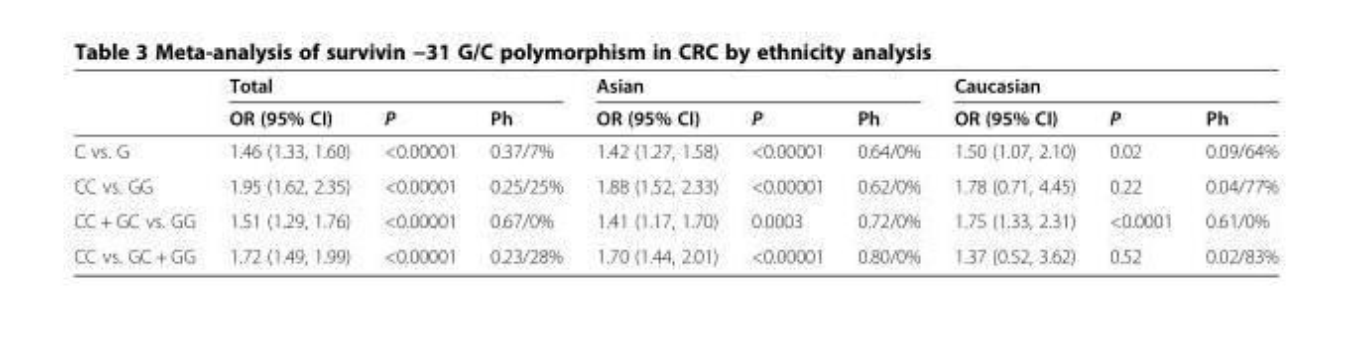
<table><thead><tr><td rowspan="2"></td><td colspan="3">Total</td><td colspan="3">Asian</td><td colspan="3">Caucasian</td></tr><tr><td>OR (95% CI)</td><td>P</td><td>Ph</td><td>OR (95% CI)</td><td>P</td><td>Ph</td><td>OR (95% CI)</td><td>P</td><td>Ph</td></tr></thead><tbody><tr><td>C vs. G</td><td>1.46 (1.33, 1.60)</td><td>&lt;0.00001</td><td>0.37/7%</td><td>1.42 (1.27, 1.58)</td><td>&lt;0.00001</td><td>0.64/0%</td><td>1.50 (1.07, 2.10)</td><td>0.02</td><td>0.09/64%</td></tr><tr><td>CC vs. GG</td><td>1.95 (1.62, 2.35)</td><td>&lt;0.00001</td><td>0.25/25%</td><td>1.88 (1.52, 2.33)</td><td>&lt;0.00001</td><td>0.62/0%</td><td>1.78 (0.71, 4.45)</td><td>0.22</td><td>0.04/77%</td></tr><tr><td>CC + GC vs. GG</td><td>1.51 (1.29, 1.76)</td><td>&lt;0.00001</td><td>0.67/0%</td><td>1.41 (1.17, 1.70)</td><td>0.0003</td><td>0.72/0%</td><td>1.75 (1.33, 2.31)</td><td>&lt;0.0001</td><td>0.61/0%</td></tr><tr><td>CC vs. GC + GG</td><td>1.72 (1.49, 1.99)</td><td>&lt;0.00001</td><td>0.23/28%</td><td>1.70 (1.44, 2.01)</td><td>&lt;0.00001</td><td>0.80/0%</td><td>1.37 (0.52, 3.62)</td><td>0.52</td><td>0.02/83%</td></tr></tbody></table>